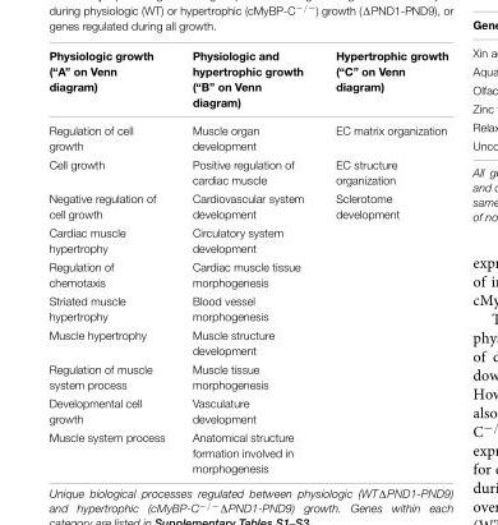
<table><thead><tr><td>Physiologic growth (“A” on Venn diagram)</td><td>Physiologic and hypertrophic growth (“B” on Venn diagram)</td><td>Hypertrophic growth (“C” on Venn diagram)</td></tr></thead><tbody><tr><td>Regulation of cell growth</td><td>Muscle organ development</td><td>EC matrix organization</td></tr><tr><td>Cell growth</td><td>Positive regulation of cardiac muscle</td><td>EC structure organization</td></tr><tr><td>Negative regulation of cell growth</td><td>Cardiovascular system development</td><td>Sclerotome development</td></tr><tr><td>Cardiac muscle hypertrophy</td><td>Circulatory system development</td><td></td></tr><tr><td>Regulation of chemotaxis</td><td>Cardiac muscle tissue morphogenesis</td><td></td></tr><tr><td>Striated muscle hypertrophy</td><td>Blood vessel morphogenesis</td><td></td></tr><tr><td>Muscle hypertrophy</td><td>Muscle structure development</td><td></td></tr><tr><td>Regulation of muscle system process</td><td>Muscle tissue morphogenesis</td><td></td></tr><tr><td>Developmental cell growth</td><td>Vasculature development</td><td></td></tr><tr><td>Muscle system process</td><td>Anatomical structure formation involved in morphogenesis</td><td></td></tr></tbody></table>